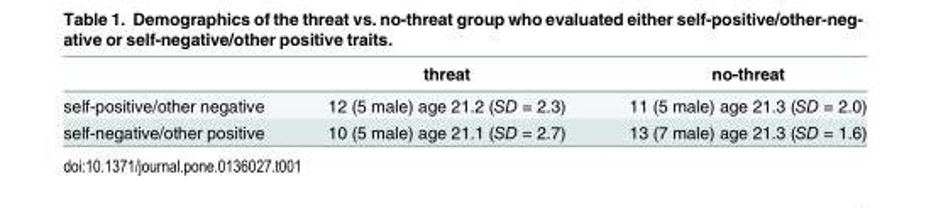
<table><thead><tr><td></td><td>threat</td><td>no-threat</td></tr></thead><tbody><tr><td>self-positive/other negative</td><td>12 (5 male) age 21.2 (SD = 2.3)</td><td>11 (5 male) age 21.3 (SD = 2.0)</td></tr><tr><td>self-negative/other positive</td><td>10 (5 male) age 21.1 (SD = 2.7)</td><td>13 (7 male) age 21.3 (SD = 1.6)</td></tr></tbody></table>